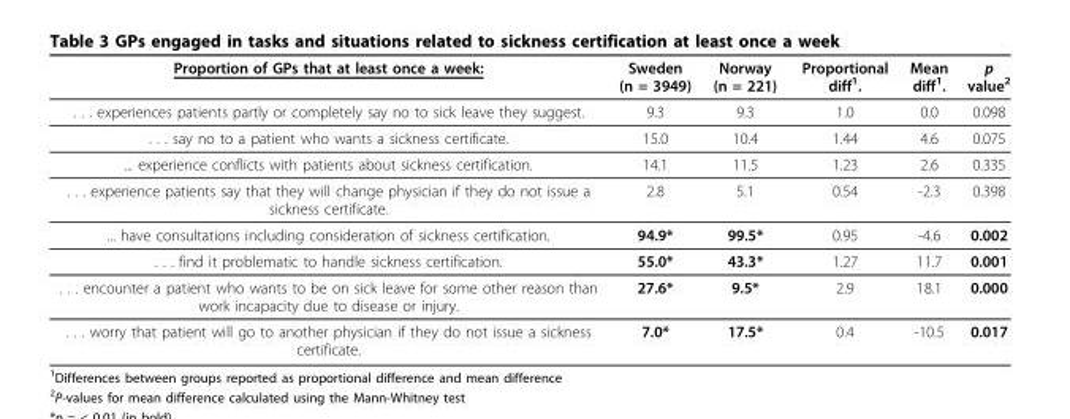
<table><thead><tr><td>Proportion of GPs that at least once a week:</td><td>Sweden (n = 3949)</td><td>Norway (n = 221)</td><td>Proportional diff<sup>1</sup>.</td><td>Mean diff<sup>1</sup>.</td><td>p value<sup>2</sup></td></tr></thead><tbody><tr><td>. . . experiences patients partly or completely say no to sick leave they suggest.</td><td>9.3</td><td>9.3</td><td>1.0</td><td>0.0</td><td>0.098</td></tr><tr><td>. . . say no to a patient who wants a sickness certificate.</td><td>15.0</td><td>10.4</td><td>1.44</td><td>4.6</td><td>0.075</td></tr><tr><td>... experience conflicts with patients about sickness certification.</td><td>14.1</td><td>11.5</td><td>1.23</td><td>2.6</td><td>0.335</td></tr><tr><td>. . . experience patients say that they will change physician if they do not issue a sickness certificate.</td><td>2.8</td><td>5.1</td><td>0.54</td><td>-2.3</td><td>0.398</td></tr><tr><td>... have consultations including consideration of sickness certification.</td><td>94.9*</td><td>99.5*</td><td>0.95</td><td>-4.6</td><td>0.002</td></tr><tr><td>. . . find it problematic to handle sickness certification.</td><td>55.0*</td><td>43.3*</td><td>1.27</td><td>11.7</td><td>0.001</td></tr><tr><td>. . . encounter a patient who wants to be on sick leave for some other reason than work incapacity due to disease or injury.</td><td>27.6*</td><td>9.5*</td><td>2.9</td><td>18.1</td><td>0.000</td></tr><tr><td>. . . worry that patient will go to another physician if they do not issue a sickness certificate.</td><td>7.0*</td><td>17.5*</td><td>0.4</td><td>-10.5</td><td>0.017</td></tr></tbody></table>